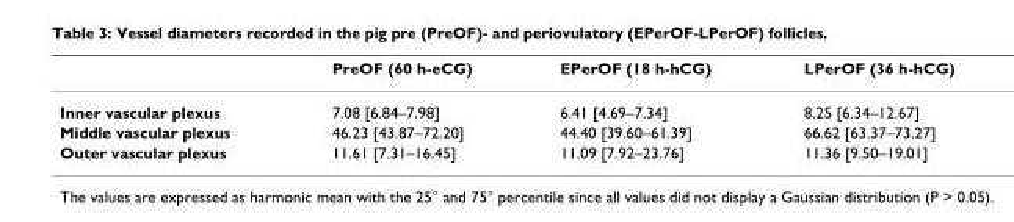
<table><thead><tr><td></td><td>PreOF (60 h-eCG)</td><td>EPerOF (18 h-hCG)</td><td>LPerOF (36 h-hCG)</td></tr></thead><tbody><tr><td>Inner vascular plexus</td><td>7.08 [6.84–7.98]</td><td>6.41 [4.69–7.34]</td><td>8.25 [6.34–12.67]</td></tr><tr><td>Middle vascular plexus</td><td>46.23 [43.87–72.20]</td><td>44.40 [39.60–61.39]</td><td>66.62 [63.37–73.27]</td></tr><tr><td>Outer vascular plexus</td><td>11.61 [7.31–16.45]</td><td>11.09 [7.92–23.76]</td><td>11.36 [9.50–19.01]</td></tr></tbody></table>